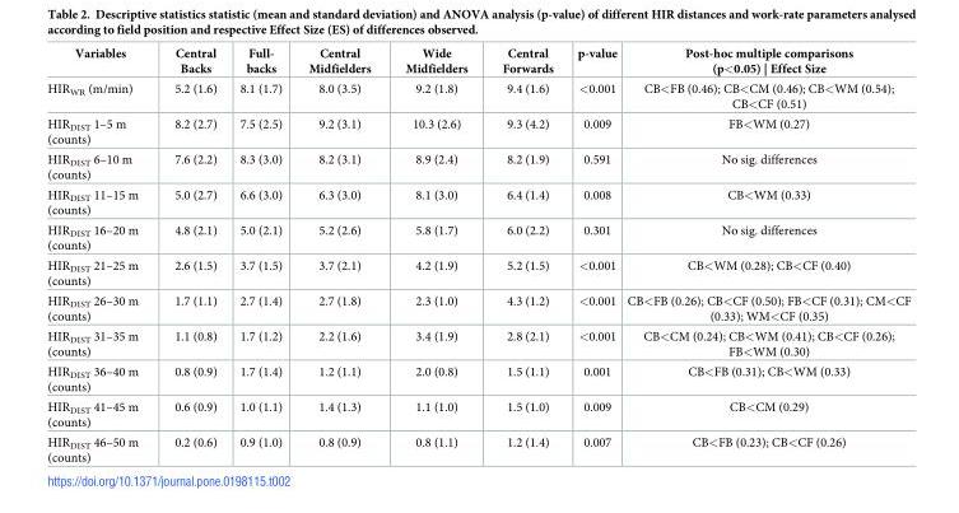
<table><thead><tr><td>Variables</td><td>Central Backs</td><td>Full- backs</td><td>Central Midfielders</td><td>Wide Midfielders</td><td>Central Forwards</td><td>p-value</td><td>Post-hoc multiple comparisons (p&lt;0.05) | Effect Size</td></tr></thead><tbody><tr><td>HIR<sub>WR</sub> (m/min)</td><td>5.2 (1.6)</td><td>8.1 (1.7)</td><td>8.0 (3.5)</td><td>9.2 (1.8)</td><td>9.4 (1.6)</td><td>&lt;0.001</td><td>CB&lt;FB (0.46); CB&lt;CM (0.46); CB&lt;WM (0.54); CB&lt;CF (0.51)</td></tr><tr><td>HIR<sub>DIST</sub> 1–5 m (counts)</td><td>8.2 (2.7)</td><td>7.5 (2.5)</td><td>9.2 (3.1)</td><td>10.3 (2.6)</td><td>9.3 (4.2)</td><td>0.009</td><td>FB&lt;WM (0.27)</td></tr><tr><td>HIR<sub>DIST</sub> 6–10 m (counts)</td><td>7.6 (2.2)</td><td>8.3 (3.0)</td><td>8.2 (3.1)</td><td>8.9 (2.4)</td><td>8.2 (1.9)</td><td>0.591</td><td>No sig. differences</td></tr><tr><td>HIR<sub>DIST</sub> 11–15 m (counts)</td><td>5.0 (2.7)</td><td>6.6 (3.0)</td><td>6.3 (3.0)</td><td>8.1 (3.0)</td><td>6.4 (1.4)</td><td>0.008</td><td>CB&lt;WM (0.33)</td></tr><tr><td>HIR<sub>DIST</sub> 16–20 m (counts)</td><td>4.8 (2.1)</td><td>5.0 (2.1)</td><td>5.2 (2.6)</td><td>5.8 (1.7)</td><td>6.0 (2.2)</td><td>0.301</td><td>No sig. differences</td></tr><tr><td>HIR<sub>DIST</sub> 21–25 m (counts)</td><td>2.6 (1.5)</td><td>3.7 (1.5)</td><td>3.7 (2.1)</td><td>4.2 (1.9)</td><td>5.2 (1.5)</td><td>&lt;0.001</td><td>CB&lt;WM (0.28); CB&lt;CF (0.40)</td></tr><tr><td>HIR<sub>DIST</sub> 26–30 m (counts)</td><td>1.7 (1.1)</td><td>2.7 (1.4)</td><td>2.7 (1.8)</td><td>2.3 (1.0)</td><td>4.3 (1.2)</td><td>&lt;0.001</td><td>CB&lt;FB (0.26); CB&lt;CF (0.50); FB&lt;CF (0.31); CM&lt;CF (0.33); WM&lt;CF (0.35)</td></tr><tr><td>HIR<sub>DIST</sub> 31–35 m (counts)</td><td>1.1 (0.8)</td><td>1.7 (1.2)</td><td>2.2 (1.6)</td><td>3.4 (1.9)</td><td>2.8 (2.1)</td><td>&lt;0.001</td><td>CB&lt;CM (0.24); CB&lt;WM (0.41); CB&lt;CF (0.26); FB&lt;WM (0.30)</td></tr><tr><td>HIR<sub>DIST</sub> 36–40 m (counts)</td><td>0.8 (0.9)</td><td>1.7 (1.4)</td><td>1.2 (1.1)</td><td>2.0 (0.8)</td><td>1.5 (1.1)</td><td>0.001</td><td>CB&lt;FB (0.31); CB&lt;WM (0.33)</td></tr><tr><td>HIR<sub>DIST</sub> 41–45 m (counts)</td><td>0.6 (0.9)</td><td>1.0 (1.1)</td><td>1.4 (1.3)</td><td>1.1 (1.0)</td><td>1.5 (1.0)</td><td>0.009</td><td>CB&lt;CM (0.29)</td></tr><tr><td>HIR<sub>DIST</sub> 46–50 m (counts)</td><td>0.2 (0.6)</td><td>0.9 (1.0)</td><td>0.8 (0.9)</td><td>0.8 (1.1)</td><td>1.2 (1.4)</td><td>0.007</td><td>CB&lt;FB (0.23); CB&lt;CF (0.26)</td></tr></tbody></table>